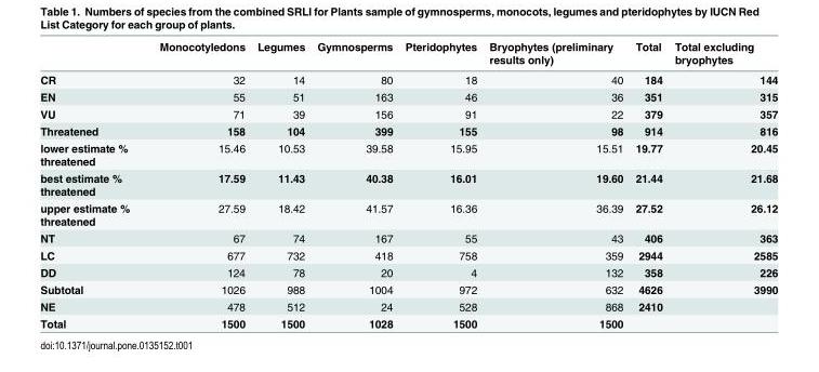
<table><thead><tr><td></td><td>Monocotyledons</td><td>Legumes</td><td>Gymnosperms</td><td>Pteridophytes</td><td>Bryophytes (preliminary results only)</td><td>Total</td><td>Total excluding bryophytes</td></tr></thead><tbody><tr><td>CR</td><td>32</td><td>14</td><td>80</td><td>18</td><td>40</td><td>184</td><td>144</td></tr><tr><td>EN</td><td>55</td><td>51</td><td>163</td><td>46</td><td>36</td><td>351</td><td>315</td></tr><tr><td>VU</td><td>71</td><td>39</td><td>156</td><td>91</td><td>22</td><td>379</td><td>357</td></tr><tr><td>Threatened</td><td>158</td><td>104</td><td>399</td><td>155</td><td>98</td><td>914</td><td>816</td></tr><tr><td>lower estimate % threatened</td><td>15.46</td><td>10.53</td><td>39.58</td><td>15.95</td><td>15.51</td><td>19.77</td><td>20.45</td></tr><tr><td>best estimate % threatened</td><td>17.59</td><td>11.43</td><td>40.38</td><td>16.01</td><td>19.60</td><td>21.44</td><td>21.68</td></tr><tr><td>upper estimate % threatened</td><td>27.59</td><td>18.42</td><td>41.57</td><td>16.36</td><td>36.39</td><td>27.52</td><td>26.12</td></tr><tr><td>NT</td><td>67</td><td>74</td><td>167</td><td>55</td><td>43</td><td>406</td><td>363</td></tr><tr><td>LC</td><td>677</td><td>732</td><td>418</td><td>758</td><td>359</td><td>2944</td><td>2585</td></tr><tr><td>DD</td><td>124</td><td>78</td><td>20</td><td>4</td><td>132</td><td>358</td><td>226</td></tr><tr><td>Subtotal</td><td>1026</td><td>988</td><td>1004</td><td>972</td><td>632</td><td>4626</td><td>3990</td></tr><tr><td>NE</td><td>478</td><td>512</td><td>24</td><td>528</td><td>868</td><td>2410</td><td></td></tr><tr><td>Total</td><td>1500</td><td>1500</td><td>1028</td><td>1500</td><td>1500</td><td></td><td></td></tr></tbody></table>